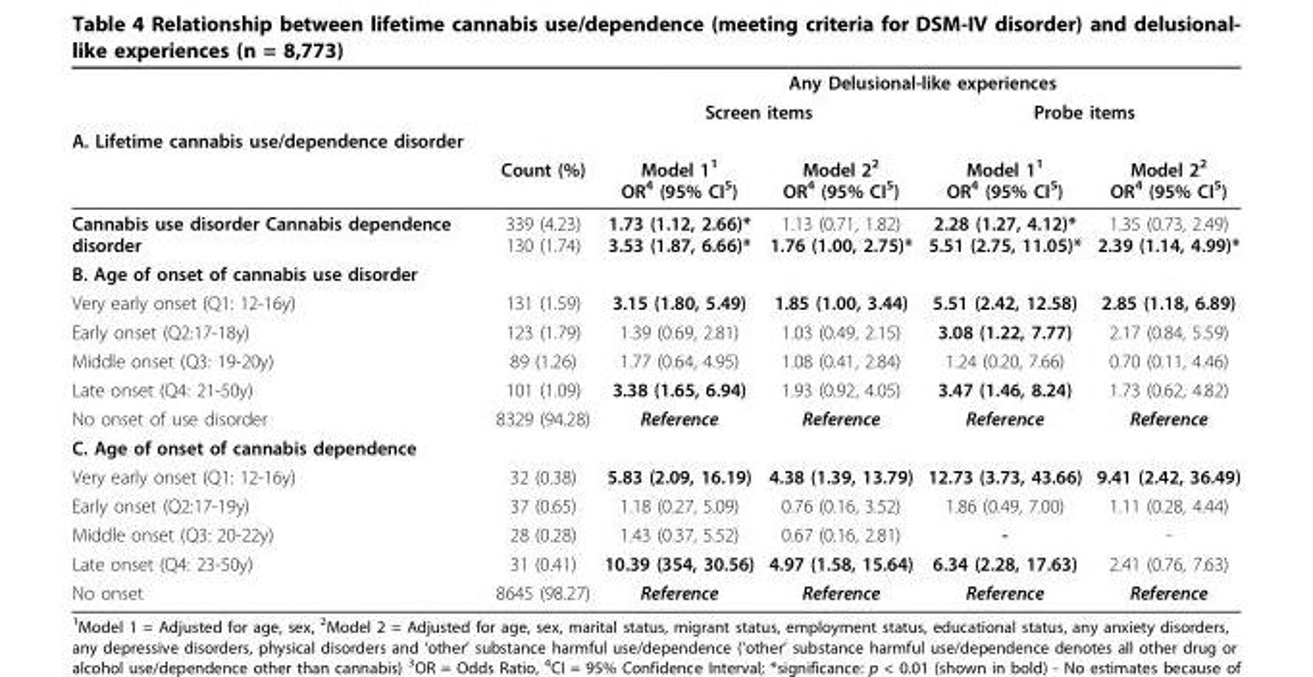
<table><thead><tr><td rowspan="2"></td><td rowspan="2"></td><td colspan="4">Any Delusional-like experiences</td></tr><tr><td colspan="2">Screen items</td><td colspan="2">Probe items</td></tr><tr><td colspan="6">A. Lifetime cannabis use/dependence disorder</td></tr><tr><td></td><td>Count (%)</td><td>Model 1<sup>1</sup> OR<sup>4</sup> (95% CI<sup>5</sup>)</td><td>Model 2<sup>2</sup> OR<sup>4</sup> (95% CI<sup>5</sup>)</td><td>Model 1<sup>1</sup> OR<sup>4</sup> (95% CI<sup>5</sup>)</td><td>Model 2<sup>2</sup> OR<sup>4</sup> (95% CI<sup>5</sup>)</td></tr></thead><tbody><tr><td>Cannabis use disorder Cannabis dependence disorder</td><td>339 (4.23) 130 (1.74)</td><td>1.73 (1.12, 2.66)* 3.53 (1.87, 6.66)*</td><td>1.13 (0.71, 1.82) 1.76 (1.00, 2.75)*</td><td>2.28 (1.27, 4.12)* 5.51 (2.75, 11.05)*</td><td>1.35 (0.73, 2.49) 2.39 (1.14, 4.99)*</td></tr><tr><td colspan="6">B. Age of onset of cannabis use disorder</td></tr><tr><td>Very early onset (Q1: 12-16y)</td><td>131 (1.59)</td><td>3.15 (1.80, 5.49)</td><td>1.85 (1.00, 3.44)</td><td>5.51 (2.42, 12.58)</td><td>2.85 (1.18, 6.89)</td></tr><tr><td>Early onset (Q2:17-18y)</td><td>123 (1.79)</td><td>1.39 (0.69, 2.81)</td><td>1.03 (0.49, 2.15)</td><td>3.08 (1.22, 7.77)</td><td>2.17 (0.84, 5.59)</td></tr><tr><td>Middle onset (Q3: 19-20y)</td><td>89 (1.26)</td><td>1.77 (0.64, 4.95)</td><td>1.08 (0.41, 2.84)</td><td>1.24 (0.20, 7.66)</td><td>0.70 (0.11, 4.46)</td></tr><tr><td>Late onset (Q4: 21-50y)</td><td>101 (1.09)</td><td>3.38 (1.65, 6.94)</td><td>1.93 (0.92, 4.05)</td><td>3.47 (1.46, 8.24)</td><td>1.73 (0.62, 4.82)</td></tr><tr><td>No onset of use disorder</td><td>8329 (94.28)</td><td>Reference</td><td>Reference</td><td>Reference</td><td>Reference</td></tr><tr><td colspan="6">C. Age of onset of cannabis dependence</td></tr><tr><td>Very early onset (Q1: 12-16y)</td><td>32 (0.38)</td><td>5.83 (2.09, 16.19)</td><td>4.38 (1.39, 13.79)</td><td>12.73 (3.73, 43.66)</td><td>9.41 (2.42, 36.49)</td></tr><tr><td>Early onset (Q2:17-19y)</td><td>37 (0.65)</td><td>1.18 (0.27, 5.09)</td><td>0.76 (0.16, 3.52)</td><td>1.86 (0.49, 7.00)</td><td>1.11 (0.28, 4.44)</td></tr><tr><td>Middle onset (Q3: 20-22y)</td><td>28 (0.28)</td><td>1.43 (0.37, 5.52)</td><td>0.67 (0.16, 2.81)</td><td>-</td><td>-</td></tr><tr><td>Late onset (Q4: 23-50y)</td><td>31 (0.41)</td><td>10.39 (354, 30.56)</td><td>4.97 (1.58, 15.64)</td><td>6.34 (2.28, 17.63)</td><td>2.41 (0.76, 7.63)</td></tr><tr><td>No onset</td><td>8645 (98.27)</td><td>Reference</td><td>Reference</td><td>Reference</td><td>Reference</td></tr></tbody></table>